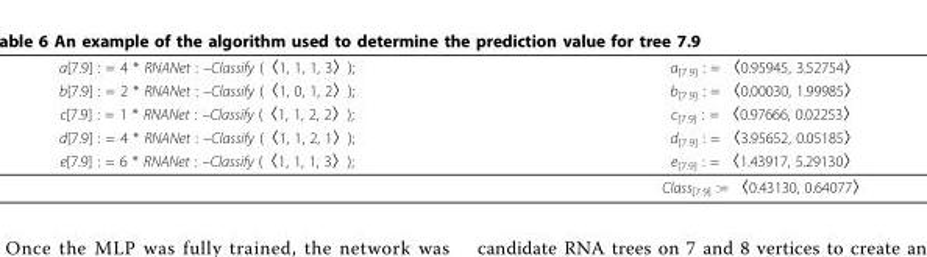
<table><thead><tr><td rowspan="5">a[7.9] : = 4 * RNANet : –Classify (〈1, 1, 1, 3〉); b[7.9] : = 2 * RNANet : –Classify (〈1, 0, 1, 2〉); c[7.9] : = 1 * RNANet : –Classify (〈1, 1, 2, 2〉); d[7.9] : = 4 * RNANet : –Classify (〈1, 1, 2, 1〉); e[7.9] : = 6 * RNANet : –Classify (〈1, 1, 1, 3〉);</td><td rowspan="5">a[7.9] : = 〈0.95945, 3.52754〉 b[7.9] : = 〈0.00030, 1.99985〉 c[7.9] : = 〈0.97666, 0.02253〉 d[7.9] : = 〈3.95652, 0.05185〉 e[7.9] : = 〈1.43917, 5.29130〉</td></tr><tr></tr><tr></tr><tr></tr><tr></tr></thead><tbody><tr><td></td><td>Class[7.9] := 〈0.43130, 0.64077〉</td></tr></tbody></table>